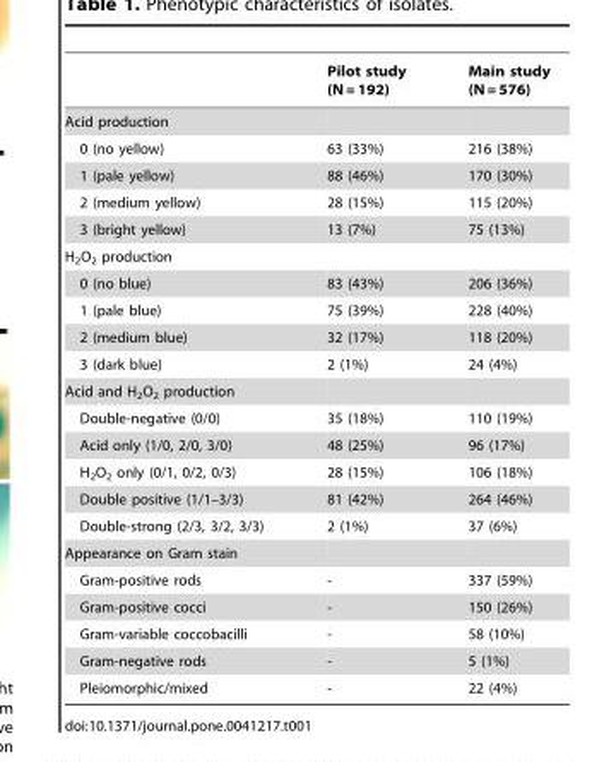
<table><thead><tr><td></td><td>Pilot study (N = 192)</td><td>Main study (N = 576)</td></tr></thead><tbody><tr><td colspan="3">Acid production</td></tr><tr><td>0 (no yellow)</td><td>63 (33%)</td><td>216 (38%)</td></tr><tr><td>1 (pale yellow)</td><td>88 (46%)</td><td>170 (30%)</td></tr><tr><td>2 (medium yellow)</td><td>28 (15%)</td><td>115 (20%)</td></tr><tr><td>3 (bright yellow)</td><td>13 (7%)</td><td>75 (13%)</td></tr><tr><td colspan="3">H<sub>2</sub>O<sub>2</sub> production</td></tr><tr><td>0 (no blue)</td><td>83 (43%)</td><td>206 (36%)</td></tr><tr><td>1 (pale blue)</td><td>75 (39%)</td><td>228 (40%)</td></tr><tr><td>2 (medium blue)</td><td>32 (17%)</td><td>118 (20%)</td></tr><tr><td>3 (dark blue)</td><td>2 (1%)</td><td>24 (4%)</td></tr><tr><td colspan="3">Acid and H<sub>2</sub>O<sub>2</sub> production</td></tr><tr><td>Double-negative (0/0)</td><td>35 (18%)</td><td>110 (19%)</td></tr><tr><td>Acid only (1/0, 2/0, 3/0)</td><td>48 (25%)</td><td>96 (17%)</td></tr><tr><td>H<sub>2</sub>O<sub>2</sub> only (0/1, 0/2, 0/3)</td><td>28 (15%)</td><td>106 (18%)</td></tr><tr><td>Double positive (1/1–3/3)</td><td>81 (42%)</td><td>264 (46%)</td></tr><tr><td>Double-strong (2/3, 3/2, 3/3)</td><td>2 (1%)</td><td>37 (6%)</td></tr><tr><td colspan="3">Appearance on Gram stain</td></tr><tr><td>Gram-positive rods</td><td>-</td><td>337 (59%)</td></tr><tr><td>Gram-positive cocci</td><td>-</td><td>150 (26%)</td></tr><tr><td>Gram-variable coccobacilli</td><td>-</td><td>58 (10%)</td></tr><tr><td>Gram-negative rods</td><td>-</td><td>5 (1%)</td></tr><tr><td>Pleiomorphic/mixed</td><td>-</td><td>22 (4%)</td></tr></tbody></table>